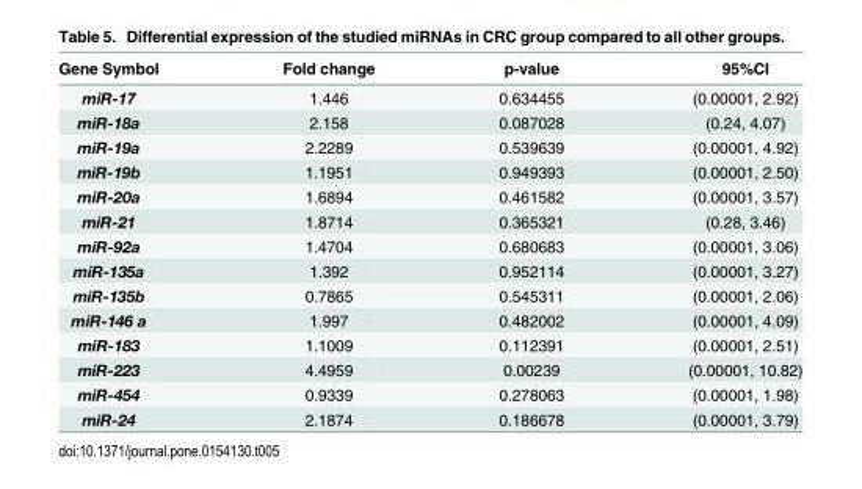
<table><thead><tr><td>Gene Symbol</td><td>Fold change</td><td>p-value</td><td>95%CI</td></tr></thead><tbody><tr><td>miR-17</td><td>1.446</td><td>0.634455</td><td>(0.00001, 2.92)</td></tr><tr><td>miR-18a</td><td>2.158</td><td>0.087028</td><td>(0.24, 4.07)</td></tr><tr><td>miR-19a</td><td>2.2289</td><td>0.539639</td><td>(0.00001, 4.92)</td></tr><tr><td>miR-19b</td><td>1.1951</td><td>0.949393</td><td>(0.00001, 2.50)</td></tr><tr><td>miR-20a</td><td>1.6894</td><td>0.461582</td><td>(0.00001, 3.57)</td></tr><tr><td>miR-21</td><td>1.8714</td><td>0.365321</td><td>(0.28, 3.46)</td></tr><tr><td>miR-92a</td><td>1.4704</td><td>0.680683</td><td>(0.00001, 3.06)</td></tr><tr><td>miR-135a</td><td>1.392</td><td>0.952114</td><td>(0.00001, 3.27)</td></tr><tr><td>miR-135b</td><td>0.7865</td><td>0.545311</td><td>(0.00001, 2.06)</td></tr><tr><td>miR-146 a</td><td>1.997</td><td>0.482002</td><td>(0.00001, 4.09)</td></tr><tr><td>miR-183</td><td>1.1009</td><td>0.112391</td><td>(0.00001, 2.51)</td></tr><tr><td>miR-223</td><td>4.4959</td><td>0.00239</td><td>(0.00001, 10.82)</td></tr><tr><td>miR-454</td><td>0.9339</td><td>0.278063</td><td>(0.00001, 1.98)</td></tr><tr><td>miR-24</td><td>2.1874</td><td>0.186678</td><td>(0.00001, 3.79)</td></tr></tbody></table>